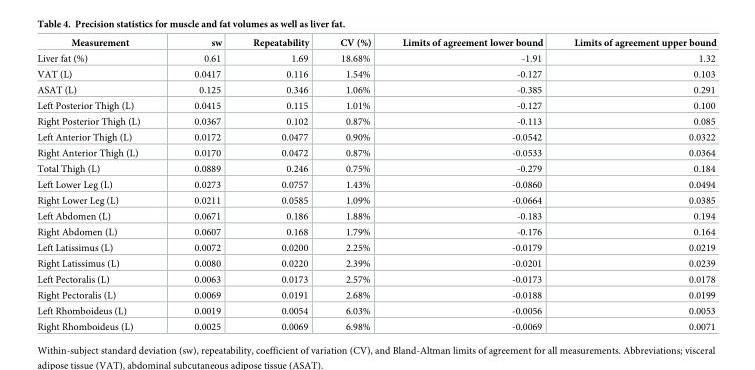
<table><thead><tr><td>Measurement</td><td>sw</td><td>Repeatability</td><td>CV (%)</td><td>Limits of agreement lower bound</td><td>Limits of agreement upper bound</td></tr></thead><tbody><tr><td>Liver fat (%)</td><td>0.61</td><td>1.69</td><td>18.68%</td><td>-1.91</td><td>1.32</td></tr><tr><td>VAT (L)</td><td>0.0417</td><td>0.116</td><td>1.54%</td><td>-0.127</td><td>0.103</td></tr><tr><td>ASAT (L)</td><td>0.125</td><td>0.346</td><td>1.06%</td><td>-0.385</td><td>0.291</td></tr><tr><td>Left Posterior Thigh (L)</td><td>0.0415</td><td>0.115</td><td>1.01%</td><td>-0.127</td><td>0.100</td></tr><tr><td>Right Posterior Thigh (L)</td><td>0.0367</td><td>0.102</td><td>0.87%</td><td>-0.113</td><td>0.085</td></tr><tr><td>Left Anterior Thigh (L)</td><td>0.0172</td><td>0.0477</td><td>0.90%</td><td>-0.0542</td><td>0.0322</td></tr><tr><td>Right Anterior Thigh (L)</td><td>0.0170</td><td>0.0472</td><td>0.87%</td><td>-0.0533</td><td>0.0364</td></tr><tr><td>Total Thigh (L)</td><td>0.0889</td><td>0.246</td><td>0.75%</td><td>-0.279</td><td>0.184</td></tr><tr><td>Left Lower Leg (L)</td><td>0.0273</td><td>0.0757</td><td>1.43%</td><td>-0.0860</td><td>0.0494</td></tr><tr><td>Right Lower Leg (L)</td><td>0.0211</td><td>0.0585</td><td>1.09%</td><td>-0.0664</td><td>0.0385</td></tr><tr><td>Left Abdomen (L)</td><td>0.0671</td><td>0.186</td><td>1.88%</td><td>-0.183</td><td>0.194</td></tr><tr><td>Right Abdomen (L)</td><td>0.0607</td><td>0.168</td><td>1.79%</td><td>-0.176</td><td>0.164</td></tr><tr><td>Left Latissimus (L)</td><td>0.0072</td><td>0.0200</td><td>2.25%</td><td>-0.0179</td><td>0.0219</td></tr><tr><td>Right Latissimus (L)</td><td>0.0080</td><td>0.0220</td><td>2.39%</td><td>-0.0201</td><td>0.0239</td></tr><tr><td>Left Pectoralis (L)</td><td>0.0063</td><td>0.0173</td><td>2.57%</td><td>-0.0173</td><td>0.0178</td></tr><tr><td>Right Pectoralis (L)</td><td>0.0069</td><td>0.0191</td><td>2.68%</td><td>-0.0188</td><td>0.0199</td></tr><tr><td>Left Rhomboideus (L)</td><td>0.0019</td><td>0.0054</td><td>6.03%</td><td>-0.0056</td><td>0.0053</td></tr><tr><td>Right Rhomboideus (L)</td><td>0.0025</td><td>0.0069</td><td>6.98%</td><td>-0.0069</td><td>0.0071</td></tr></tbody></table>